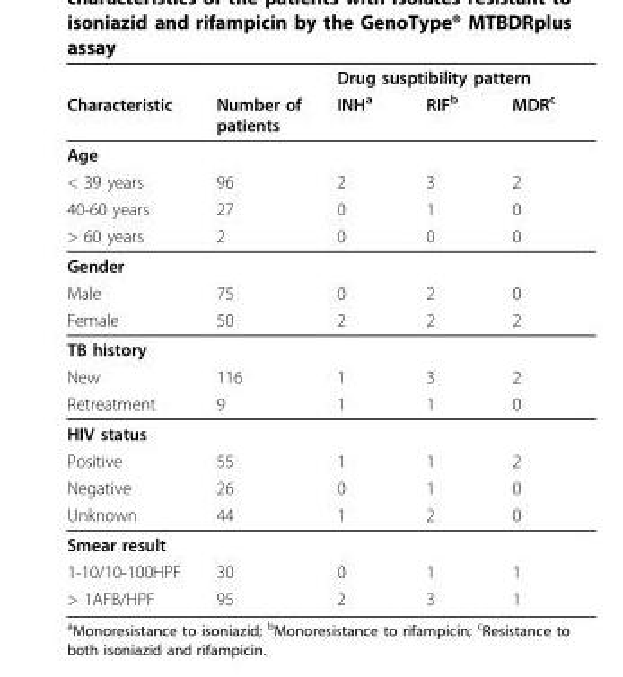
<table><thead><tr><td rowspan="2">Characteristic</td><td rowspan="2">Number of patients</td><td colspan="3">Drug susptibility pattern</td></tr><tr><td>INH<sup>a</sup></td><td>RIF<sup>b</sup></td><td>MDR<sup>c</sup></td></tr></thead><tbody><tr><td colspan="5">Age</td></tr><tr><td>&lt; 39 years</td><td>96</td><td>2</td><td>3</td><td>2</td></tr><tr><td>40-60 years</td><td>27</td><td>0</td><td>1</td><td>0</td></tr><tr><td>&gt; 60 years</td><td>2</td><td>0</td><td>0</td><td>0</td></tr><tr><td colspan="5">Gender</td></tr><tr><td>Male</td><td>75</td><td>0</td><td>2</td><td>0</td></tr><tr><td>Female</td><td>50</td><td>2</td><td>2</td><td>2</td></tr><tr><td colspan="5">TB history</td></tr><tr><td>New</td><td>116</td><td>1</td><td>3</td><td>2</td></tr><tr><td>Retreatment</td><td>9</td><td>1</td><td>1</td><td>0</td></tr><tr><td colspan="5">HIV status</td></tr><tr><td>Positive</td><td>55</td><td>1</td><td>1</td><td>2</td></tr><tr><td>Negative</td><td>26</td><td>0</td><td>1</td><td>0</td></tr><tr><td>Unknown</td><td>44</td><td>1</td><td>2</td><td>0</td></tr><tr><td colspan="5">Smear result</td></tr><tr><td>1-10/10-100HPF</td><td>30</td><td>0</td><td>1</td><td>1</td></tr><tr><td>&gt; 1AFB/HPF</td><td>95</td><td>2</td><td>3</td><td>1</td></tr></tbody></table>